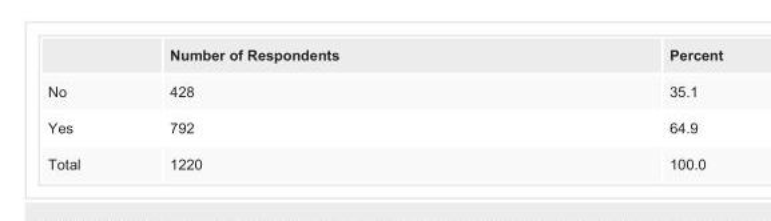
<table><thead><tr><td></td><td>Number of Respondents</td><td>Percent</td></tr></thead><tbody><tr><td>No</td><td>428</td><td>35.1</td></tr><tr><td>Yes</td><td>792</td><td>64.9</td></tr><tr><td>Total</td><td>1220</td><td>100.0</td></tr></tbody></table>